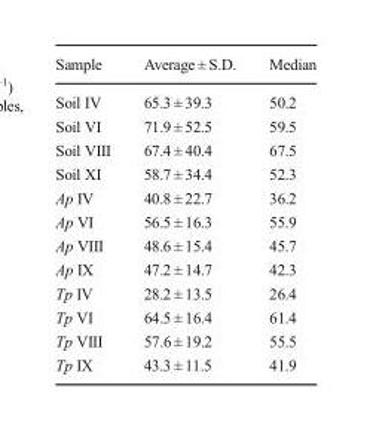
<table><thead><tr><td>Sample</td><td>Average ± S.D.</td><td>Median</td></tr></thead><tbody><tr><td>Soil IV</td><td>65.3 ± 39.3</td><td>50.2</td></tr><tr><td>Soil VI</td><td>71.9 ± 52.5</td><td>59.5</td></tr><tr><td>Soil VIII</td><td>67.4 ± 40.4</td><td>67.5</td></tr><tr><td>Soil XI</td><td>58.7 ± 34.4</td><td>52.3</td></tr><tr><td>Ap IV</td><td>40.8 ± 22.7</td><td>36.2</td></tr><tr><td>Ap VI</td><td>56.5 ± 16.3</td><td>55.9</td></tr><tr><td>Ap VIII</td><td>48.6 ± 15.4</td><td>45.7</td></tr><tr><td>Ap IX</td><td>47.2 ± 14.7</td><td>42.3</td></tr><tr><td>Tp IV</td><td>28.2 ± 13.5</td><td>26.4</td></tr><tr><td>Tp VI</td><td>64.5 ± 16.4</td><td>61.4</td></tr><tr><td>Tp VIII</td><td>57.6 ± 19.2</td><td>55.5</td></tr><tr><td>Tp IX</td><td>43.3 ± 11.5</td><td>41.9</td></tr></tbody></table>